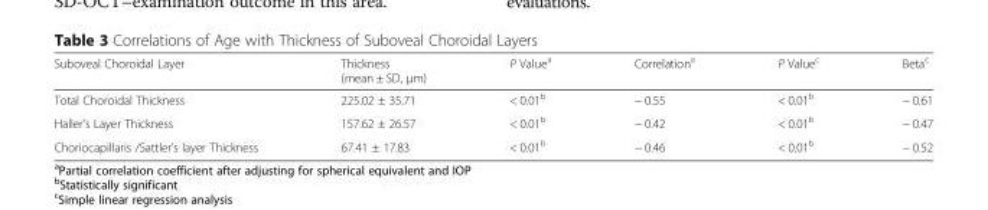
<table><thead><tr><td>Suboveal Choroidal Layer</td><td>Thickness (mean ± SD, μm)</td><td>P Value<sup>a</sup></td><td>Correlation<sup>a</sup></td><td>P Value<sup>c</sup></td><td>Beta<sup>c</sup></td></tr></thead><tbody><tr><td>Total Choroidal Thickness</td><td>225.02 ± 35.71</td><td>&lt; 0.01<sup>b</sup></td><td>− 0.55</td><td>&lt; 0.01<sup>b</sup></td><td>− 0.61</td></tr><tr><td>Haller’s Layer Thickness</td><td>157.62 ± 26.57</td><td>&lt; 0.01<sup>b</sup></td><td>− 0.42</td><td>&lt; 0.01<sup>b</sup></td><td>− 0.47</td></tr><tr><td>Choriocapillaris /Sattler’s layer Thickness</td><td>67.41 ± 17.83</td><td>&lt; 0.01<sup>b</sup></td><td>− 0.46</td><td>&lt; 0.01<sup>b</sup></td><td>− 0.52</td></tr></tbody></table>